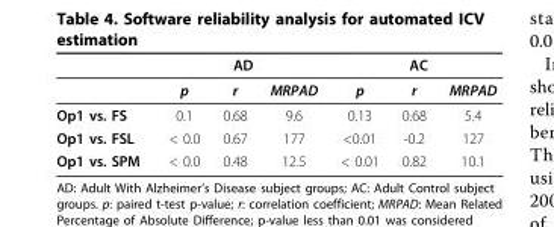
<table><thead><tr><td rowspan="2"></td><td colspan="3">AD</td><td colspan="3">AC</td></tr><tr><td>p</td><td>r</td><td>MRPAD</td><td>p</td><td>r</td><td>MRPAD</td></tr></thead><tbody><tr><td>Op1 vs. FS</td><td>0.1</td><td>0.68</td><td>9.6</td><td>0.13</td><td>0.68</td><td>5.4</td></tr><tr><td>Op1 vs. FSL</td><td>&lt; 0.0</td><td>0.67</td><td>177</td><td>&lt;0.01</td><td>-0.2</td><td>127</td></tr><tr><td>Op1 vs. SPM</td><td>&lt; 0.0</td><td>0.48</td><td>12.5</td><td>&lt; 0.01</td><td>0.82</td><td>10.1</td></tr></tbody></table>